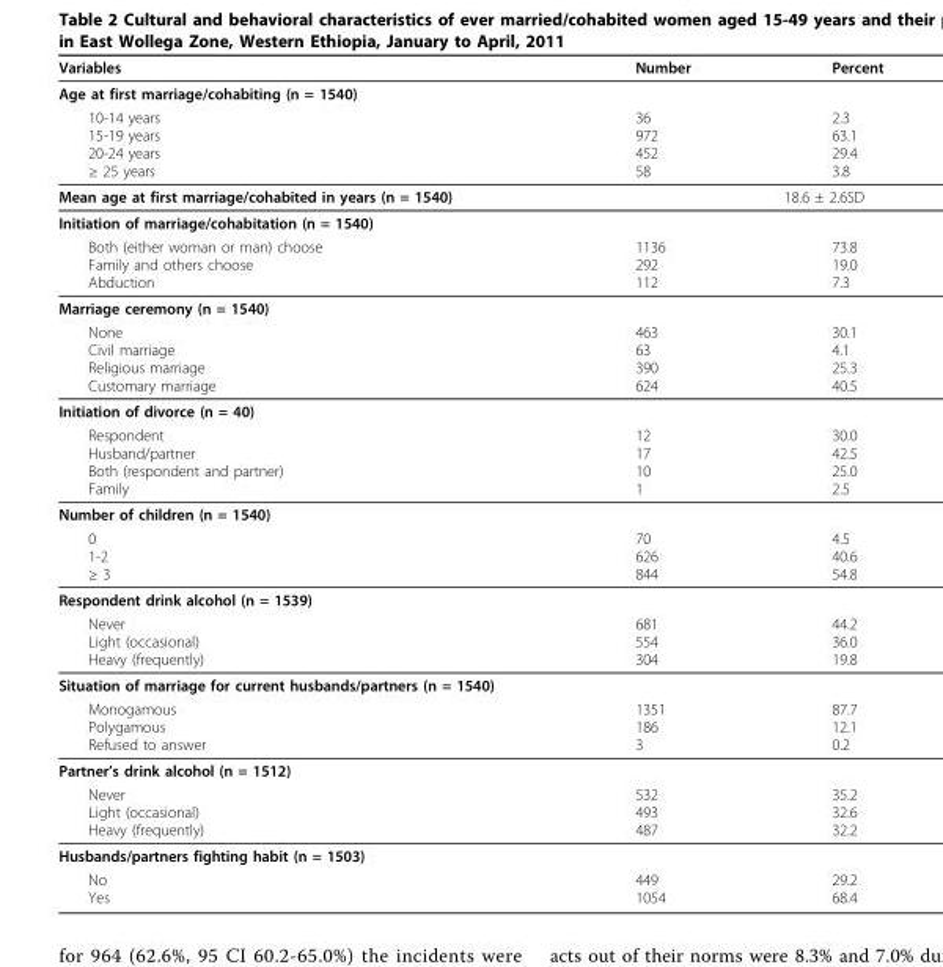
<table><thead><tr><td>Variables</td><td>Number</td><td>Percent</td></tr></thead><tbody><tr><td colspan="3">Age at first marriage/cohabiting (n = 1540)</td></tr><tr><td>10-14 years 15-19 years 20-24 years ≥ 25 years</td><td>36 972 452 58</td><td>2.3 63.1 29.4 3.8</td></tr><tr><td>Mean age at first marriage/cohabited in years (n = 1540)</td><td colspan="2">18.6 ± 2.6SD</td></tr><tr><td colspan="3">Initiation of marriage/cohabitation (n = 1540)</td></tr><tr><td>Both (either woman or man) choose Family and others choose Abduction</td><td>1136 292 112</td><td>73.8 19.0 7.3</td></tr><tr><td colspan="3">Marriage ceremony (n = 1540)</td></tr><tr><td>None Civil marriage Religious marriage Customary marriage</td><td>463 63 390 624</td><td>30.1 4.1 25.3 40.5</td></tr><tr><td colspan="3">Initiation of divorce (n = 40)</td></tr><tr><td>Respondent Husband/partner Both (respondent and partner) Family</td><td>12 17 10 1</td><td>30.0 42.5 25.0 2.5</td></tr><tr><td colspan="3">Number of children (n = 1540)</td></tr><tr><td>0 1-2 ≥ 3</td><td>70 626 844</td><td>4.5 40.6 54.8</td></tr><tr><td colspan="3">Respondent drink alcohol (n = 1539)</td></tr><tr><td>Never Light (occasional) Heavy (frequently)</td><td>681 554 304</td><td>44.2 36.0 19.8</td></tr><tr><td colspan="3">Situation of marriage for current husbands/partners (n = 1540)</td></tr><tr><td>Monogamous Polygamous Refused to answer</td><td>1351 186 3</td><td>87.7 12.1 0.2</td></tr><tr><td colspan="3">Partner’s drink alcohol (n = 1512)</td></tr><tr><td>Never Light (occasional) Heavy (frequently)</td><td>532 493 487</td><td>35.2 32.6 32.2</td></tr><tr><td colspan="3">Husbands/partners fighting habit (n = 1503)</td></tr><tr><td>No Yes</td><td>449 1054</td><td>29.2 68.4</td></tr></tbody></table>